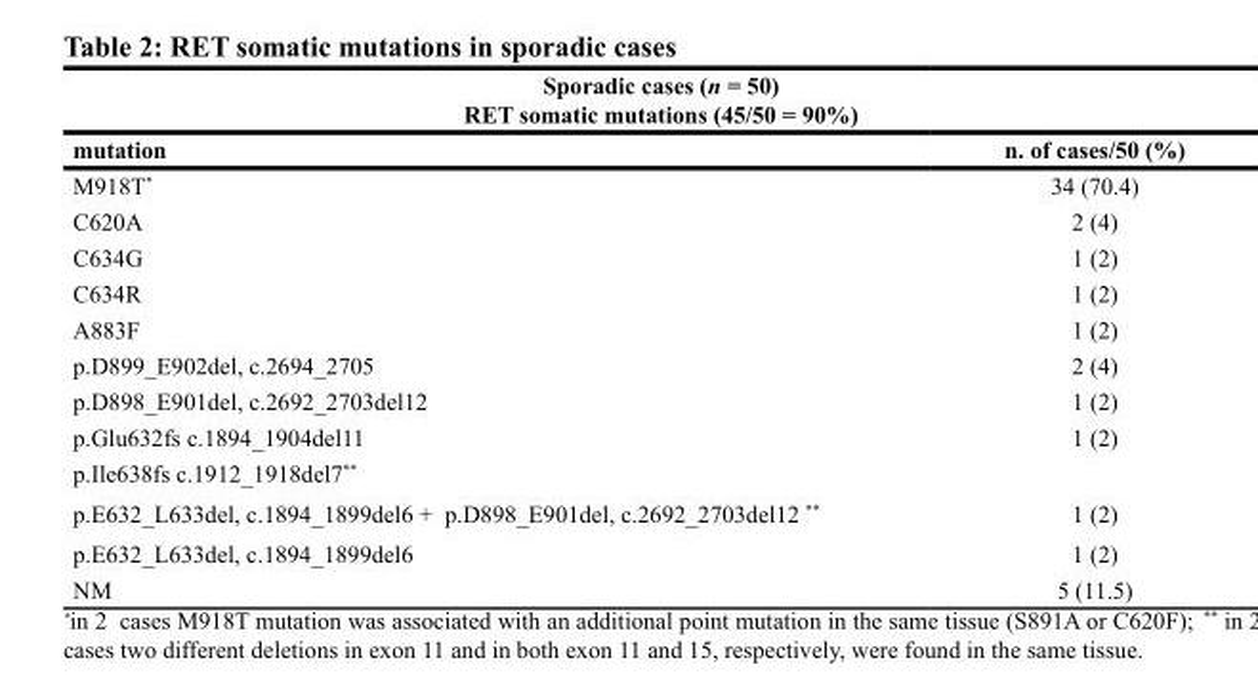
<table><thead><tr><td colspan="2">Sporadic cases (n = 50) RET somatic mutations (45/50 = 90%)</td></tr><tr><td>mutation</td><td>n. of cases/50 (%)</td></tr></thead><tbody><tr><td>M918T*</td><td>34 (70.4)</td></tr><tr><td>C620A</td><td>2 (4)</td></tr><tr><td>C634G</td><td>1 (2)</td></tr><tr><td>C634R</td><td>1 (2)</td></tr><tr><td>A883F</td><td>1 (2)</td></tr><tr><td>p.D899_E902del, c.2694_2705</td><td>2 (4)</td></tr><tr><td>p.D898_E901del, c.2692_2703del12</td><td>1 (2)</td></tr><tr><td>p.Glu632fs c.1894_1904del11</td><td>1 (2)</td></tr><tr><td colspan="2">p.Ile638fs c.1912_1918del7**</td></tr><tr><td>p.E632_L633del, c.1894_1899del6 + p.D898_E901del, c.2692_2703del12 **</td><td>1 (2)</td></tr><tr><td>p.E632_L633del, c.1894_1899del6</td><td>1 (2)</td></tr><tr><td>NM</td><td>5 (11.5)</td></tr></tbody></table>